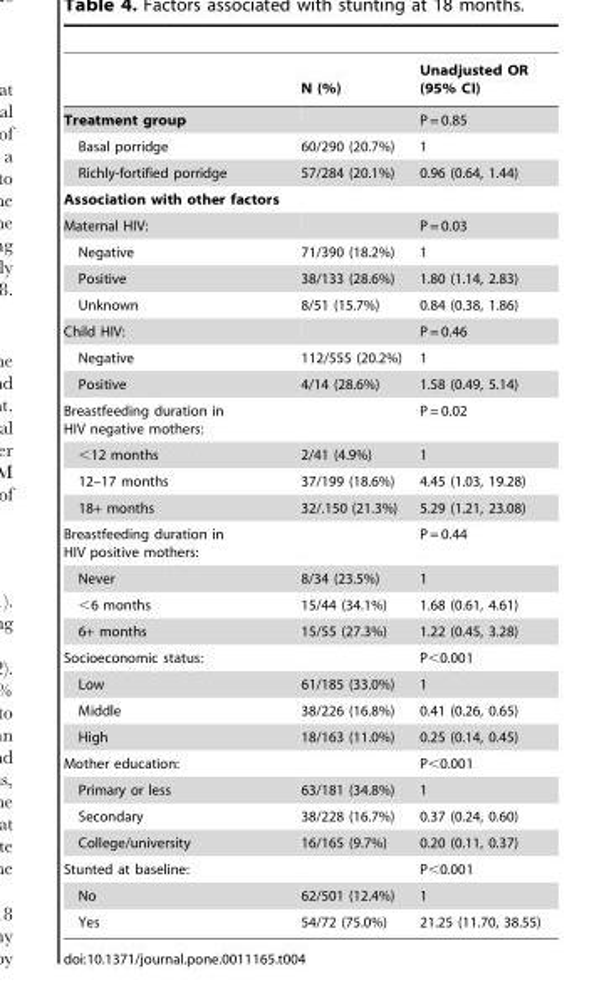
<table><thead><tr><td></td><td>N (%)</td><td>Unadjusted OR (95% CI)</td></tr></thead><tbody><tr><td>Treatment group</td><td></td><td>P = 0.85</td></tr><tr><td>Basal porridge</td><td>60/290 (20.7%)</td><td>1</td></tr><tr><td>Richly-fortified porridge</td><td>57/284 (20.1%)</td><td>0.96 (0.64, 1.44)</td></tr><tr><td colspan="3">Association with other factors</td></tr><tr><td>Maternal HIV:</td><td></td><td>P = 0.03</td></tr><tr><td>Negative</td><td>71/390 (18.2%)</td><td>1</td></tr><tr><td>Positive</td><td>38/133 (28.6%)</td><td>1.80 (1.14, 2.83)</td></tr><tr><td>Unknown</td><td>8/51 (15.7%)</td><td>0.84 (0.38, 1.86)</td></tr><tr><td>Child HIV:</td><td></td><td>P = 0.46</td></tr><tr><td>Negative</td><td>112/555 (20.2%)</td><td>1</td></tr><tr><td>Positive</td><td>4/14 (28.6%)</td><td>1.58 (0.49, 5.14)</td></tr><tr><td>Breastfeeding duration in HIV negative mothers:</td><td></td><td>P = 0.02</td></tr><tr><td>&lt;12 months</td><td>2/41 (4.9%)</td><td>1</td></tr><tr><td>12–17 months</td><td>37/199 (18.6%)</td><td>4.45 (1.03, 19.28)</td></tr><tr><td>18+ months</td><td>32/.150 (21.3%)</td><td>5.29 (1.21, 23.08)</td></tr><tr><td>Breastfeeding duration in HIV positive mothers:</td><td></td><td>P = 0.44</td></tr><tr><td>Never</td><td>8/34 (23.5%)</td><td>1</td></tr><tr><td>&lt;6 months</td><td>15/44 (34.1%)</td><td>1.68 (0.61, 4.61)</td></tr><tr><td>6+ months</td><td>15/55 (27.3%)</td><td>1.22 (0.45, 3.28)</td></tr><tr><td>Socioeconomic status:</td><td></td><td>P&lt;0.001</td></tr><tr><td>Low</td><td>61/185 (33.0%)</td><td>1</td></tr><tr><td>Middle</td><td>38/226 (16.8%)</td><td>0.41 (0.26, 0.65)</td></tr><tr><td>High</td><td>18/163 (11.0%)</td><td>0.25 (0.14, 0.45)</td></tr><tr><td>Mother education:</td><td></td><td>P&lt;0.001</td></tr><tr><td>Primary or less</td><td>63/181 (34.8%)</td><td>1</td></tr><tr><td>Secondary</td><td>38/228 (16.7%)</td><td>0.37 (0.24, 0.60)</td></tr><tr><td>College/university</td><td>16/165 (9.7%)</td><td>0.20 (0.11, 0.37)</td></tr><tr><td>Stunted at baseline:</td><td></td><td>P&lt;0.001</td></tr><tr><td>No</td><td>62/501 (12.4%)</td><td>1</td></tr><tr><td>Yes</td><td>54/72 (75.0%)</td><td>21.25 (11.70, 38.55)</td></tr></tbody></table>